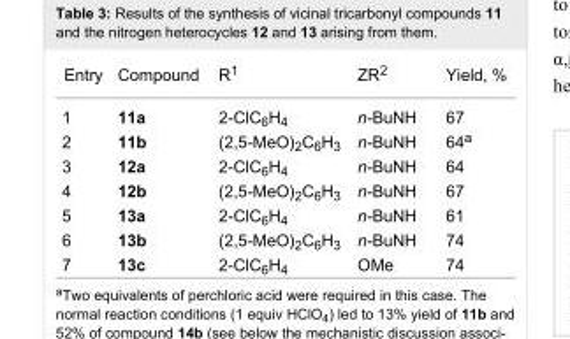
<table><tbody><tr><td>Entry</td><td>Compound</td><td>R<sup>1</sup></td><td>ZR<sup>2</sup></td><td>Yield, %</td></tr><tr><td>1</td><td>11a</td><td>2-ClC<sub>6</sub>H<sub>4</sub></td><td>n-BuNH</td><td>67</td></tr><tr><td>2</td><td>11b</td><td>(2,5-MeO)<sub>2</sub>C<sub>6</sub>H<sub>3</sub></td><td>n-BuNH</td><td>64<sup>a</sup></td></tr><tr><td>3</td><td>12a</td><td>2-ClC<sub>6</sub>H<sub>4</sub></td><td>n-BuNH</td><td>64</td></tr><tr><td>4</td><td>12b</td><td>(2,5-MeO)<sub>2</sub>C<sub>6</sub>H<sub>3</sub></td><td>n-BuNH</td><td>67</td></tr><tr><td>5</td><td>13a</td><td>2-ClC<sub>6</sub>H<sub>4</sub></td><td>n-BuNH</td><td>61</td></tr><tr><td>6</td><td>13b</td><td>(2,5-MeO)<sub>2</sub>C<sub>6</sub>H<sub>3</sub></td><td>n-BuNH</td><td>74</td></tr><tr><td>7</td><td>13c</td><td>2-ClC<sub>6</sub>H<sub>4</sub></td><td>OMe</td><td>74</td></tr></tbody></table>